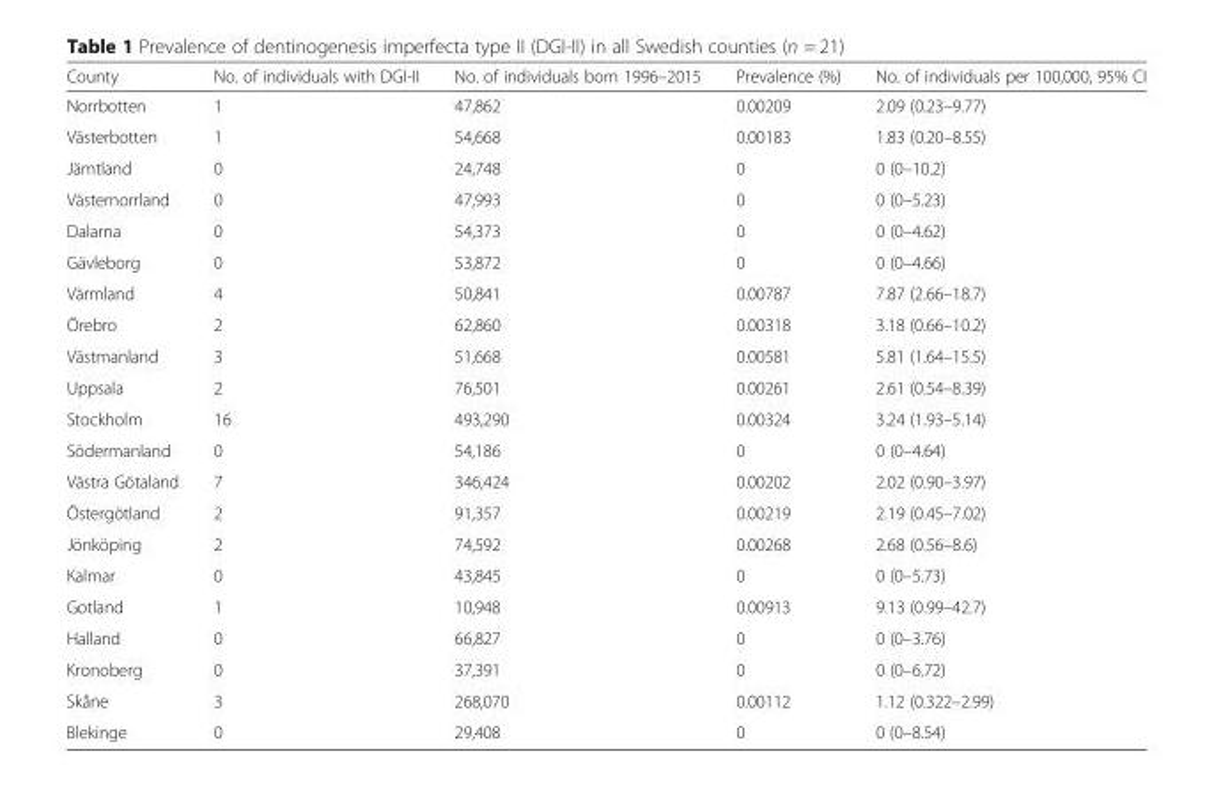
<table><thead><tr><td>County</td><td>No. of individuals with DGI-II</td><td>No. of individuals born 1996–2015</td><td>Prevalence (%)</td><td>No. of individuals per 100,000, 95% CI</td></tr></thead><tbody><tr><td>Norrbotten</td><td>1</td><td>47,862</td><td>0.00209</td><td>2.09 (0.23–9.77)</td></tr><tr><td>Västerbotten</td><td>1</td><td>54,668</td><td>0.00183</td><td>1.83 (0.20–8.55)</td></tr><tr><td>Jämtland</td><td>0</td><td>24,748</td><td>0</td><td>0 (0–10.2)</td></tr><tr><td>Västernorrland</td><td>0</td><td>47,993</td><td>0</td><td>0 (0–5.23)</td></tr><tr><td>Dalarna</td><td>0</td><td>54,373</td><td>0</td><td>0 (0–4.62)</td></tr><tr><td>Gävleborg</td><td>0</td><td>53,872</td><td>0</td><td>0 (0–4.66)</td></tr><tr><td>Värmland</td><td>4</td><td>50,841</td><td>0.00787</td><td>7.87 (2.66–18.7)</td></tr><tr><td>Örebro</td><td>2</td><td>62,860</td><td>0.00318</td><td>3.18 (0.66–10.2)</td></tr><tr><td>Västmanland</td><td>3</td><td>51,668</td><td>0.00581</td><td>5.81 (1.64–15.5)</td></tr><tr><td>Uppsala</td><td>2</td><td>76,501</td><td>0.00261</td><td>2.61 (0.54–8.39)</td></tr><tr><td>Stockholm</td><td>16</td><td>493,290</td><td>0.00324</td><td>3.24 (1.93–5.14)</td></tr><tr><td>Södermanland</td><td>0</td><td>54,186</td><td>0</td><td>0 (0–4.64)</td></tr><tr><td>Västra Götaland</td><td>7</td><td>346,424</td><td>0.00202</td><td>2.02 (0.90–3.97)</td></tr><tr><td>Östergötland</td><td>2</td><td>91,357</td><td>0.00219</td><td>2.19 (0.45–7.02)</td></tr><tr><td>Jönköping</td><td>2</td><td>74,592</td><td>0.00268</td><td>2.68 (0.56–8.6)</td></tr><tr><td>Kalmar</td><td>0</td><td>43,845</td><td>0</td><td>0 (0–5.73)</td></tr><tr><td>Gotland</td><td>1</td><td>10,948</td><td>0.00913</td><td>9.13 (0.99–42.7)</td></tr><tr><td>Halland</td><td>0</td><td>66,827</td><td>0</td><td>0 (0–3.76)</td></tr><tr><td>Kronoberg</td><td>0</td><td>37,391</td><td>0</td><td>0 (0–6.72)</td></tr><tr><td>Skåne</td><td>3</td><td>268,070</td><td>0.00112</td><td>1.12 (0.322–2.99)</td></tr><tr><td>Blekinge</td><td>0</td><td>29,408</td><td>0</td><td>0 (0–8.54)</td></tr></tbody></table>